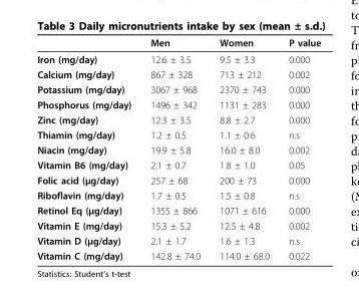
<table><thead><tr><td></td><td>Men</td><td>Women</td><td>P value</td></tr></thead><tbody><tr><td>Iron (mg/day)</td><td>12.6 ± 3.5</td><td>9.5 ± 3.3</td><td>0.000</td></tr><tr><td>Calcium (mg/day)</td><td>867 ± 328</td><td>713 ± 212</td><td>0.002</td></tr><tr><td>Potassium (mg/day)</td><td>3067 ± 968</td><td>2370 ± 743</td><td>0.000</td></tr><tr><td>Phosphorus (mg/day)</td><td>1496 ± 342</td><td>1131 ± 283</td><td>0.000</td></tr><tr><td>Zinc (mg/day)</td><td>12.3 ± 3.5</td><td>8.8 ± 2.7</td><td>0.000</td></tr><tr><td>Thiamin (mg/day)</td><td>1.2 ± 0.5</td><td>1.1 ± 0.6</td><td>n.s</td></tr><tr><td>Niacin (mg/day)</td><td>19.9 ± 5.8</td><td>16.0 ± 8.0</td><td>0.002</td></tr><tr><td>Vitamin B6 (mg/day)</td><td>2.1 ± 0.7</td><td>1.8 ± 1.0</td><td>0.05</td></tr><tr><td>Folic acid (μg/day)</td><td>257 ± 68</td><td>200 ± 73</td><td>0.000</td></tr><tr><td>Riboflavin (mg/day)</td><td>1.7 ± 0.5</td><td>1.5 ± 0.8</td><td>n.s</td></tr><tr><td>Retinol Eq (μg/day)</td><td>1355 ± 866</td><td>1071 ± 616</td><td>0.000</td></tr><tr><td>Vitamin E (mg/day)</td><td>15.3 ± 5.2</td><td>12.5 ± 4.8</td><td>0.002</td></tr><tr><td>Vitamin D (μg/day)</td><td>2.1 ± 1.7</td><td>1.6 ± 1.3</td><td>n.s</td></tr><tr><td>Vitamin C (mg/day)</td><td>142.8 ± 74.0</td><td>114.0 ± 68.0</td><td>0.022</td></tr></tbody></table>